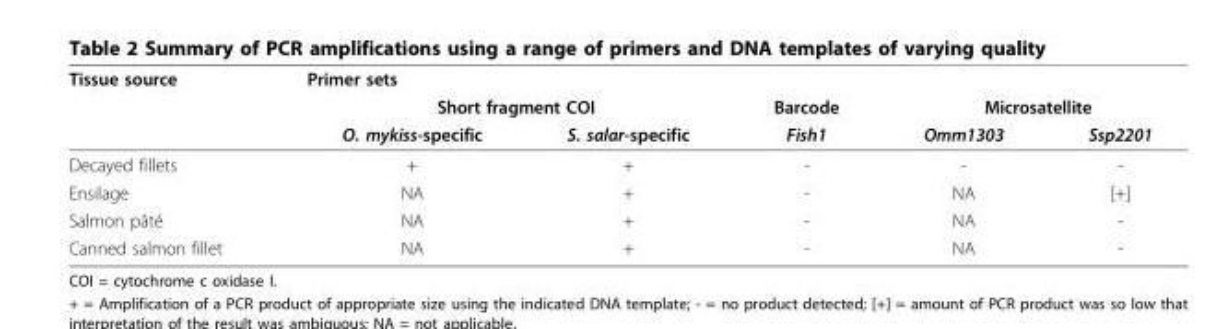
<table><thead><tr><td rowspan="3">Tissue source</td><td colspan="5">Primer sets</td></tr><tr><td colspan="2">Short fragment COI</td><td rowspan="2">Barcode Fish1</td><td colspan="2">Microsatellite</td></tr><tr><td>O. mykiss-specific</td><td>S. salar-specific</td><td>Omm1303</td><td>Ssp2201</td></tr></thead><tbody><tr><td>Decayed fillets</td><td>+</td><td>+</td><td>-</td><td>-</td><td>-</td></tr><tr><td>Ensilage</td><td>NA</td><td>+</td><td>-</td><td>NA</td><td>[+]</td></tr><tr><td>Salmon pâté</td><td>NA</td><td>+</td><td>-</td><td>NA</td><td>-</td></tr><tr><td>Canned salmon fillet</td><td>NA</td><td>+</td><td>-</td><td>NA</td><td>-</td></tr></tbody></table>